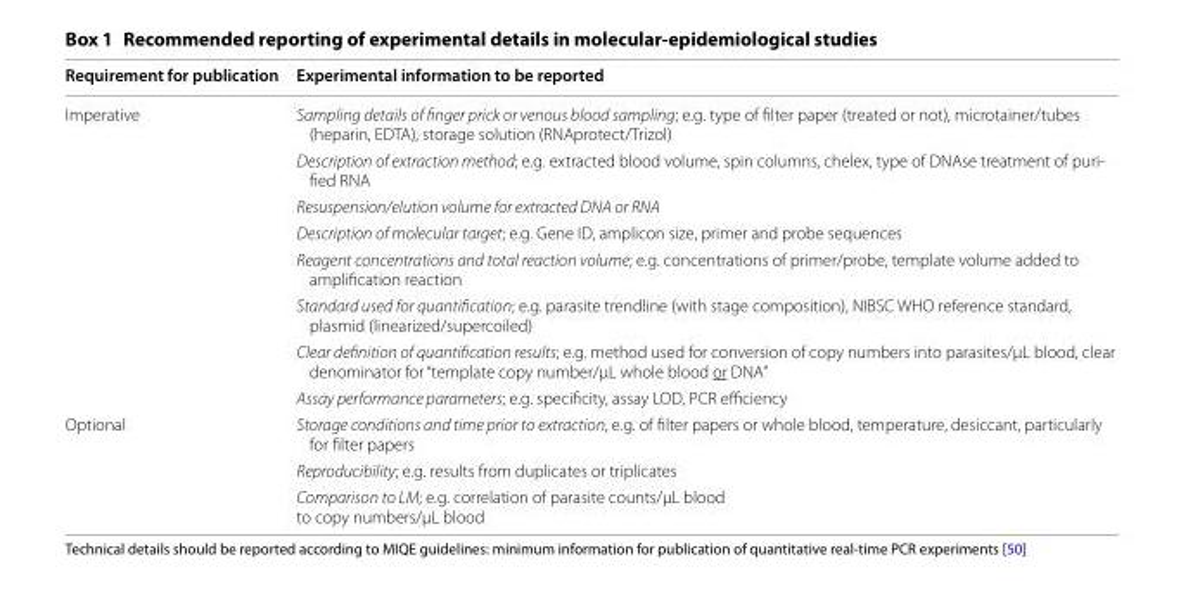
<table><thead><tr><td>Requirement for publication</td><td>Experimental information to be reported</td></tr></thead><tbody><tr><td rowspan="8">Imperative</td><td>Sampling details of finger prick or venous blood sampling; e.g. type of filter paper (treated or not), microtainer/tubes (heparin, EDTA), storage solution (RNAprotect/Trizol)</td></tr><tr><td>Description of extraction method; e.g. extracted blood volume, spin columns, chelex, type of DNAse treatment of puri- fied RNA</td></tr><tr><td>Resuspension/elution volume for extracted DNA or RNA</td></tr><tr><td>Description of molecular target; e.g. Gene ID, amplicon size, primer and probe sequences</td></tr><tr><td>Reagent concentrations and total reaction volume; e.g. concentrations of primer/probe, template volume added to amplification reaction</td></tr><tr><td>Standard used for quantification; e.g. parasite trendline (with stage composition), NIBSC WHO reference standard, plasmid (linearized/supercoiled)</td></tr><tr><td>Clear definition of quantification results; e.g. method used for conversion of copy numbers into parasites/µL blood, clear denominator for “template copy number/µL whole blood or DNA”</td></tr><tr><td>Assay performance parameters; e.g. specificity, assay LOD, PCR efficiency</td></tr><tr><td rowspan="3">Optional</td><td>Storage conditions and time prior to extraction, e.g. of filter papers or whole blood, temperature, desiccant, particularly for filter papers</td></tr><tr><td>Reproducibility; e.g. results from duplicates or triplicates</td></tr><tr><td>Comparison to LM; e.g. correlation of parasite counts/µL blood to copy numbers/µL blood</td></tr></tbody></table>